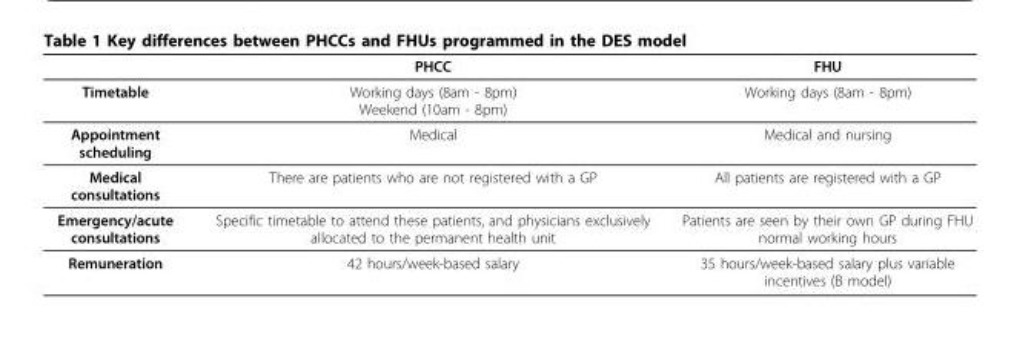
<table><thead><tr><td></td><td>PHCC</td><td>FHU</td></tr></thead><tbody><tr><td>Timetable</td><td>Working days (8am - 8pm) Weekend (10am - 8pm)</td><td>Working days (8am - 8pm)</td></tr><tr><td>Appointment scheduling</td><td>Medical</td><td>Medical and nursing</td></tr><tr><td>Medical consultations</td><td>There are patients who are not registered with a GP</td><td>All patients are registered with a GP</td></tr><tr><td>Emergency/acute consultations</td><td>Specific timetable to attend these patients, and physicians exclusively allocated to the permanent health unit</td><td>Patients are seen by their own GP during FHU normal working hours</td></tr><tr><td>Remuneration</td><td>42 hours/week-based salary</td><td>35 hours/week-based salary plus variable incentives (B model)</td></tr></tbody></table>